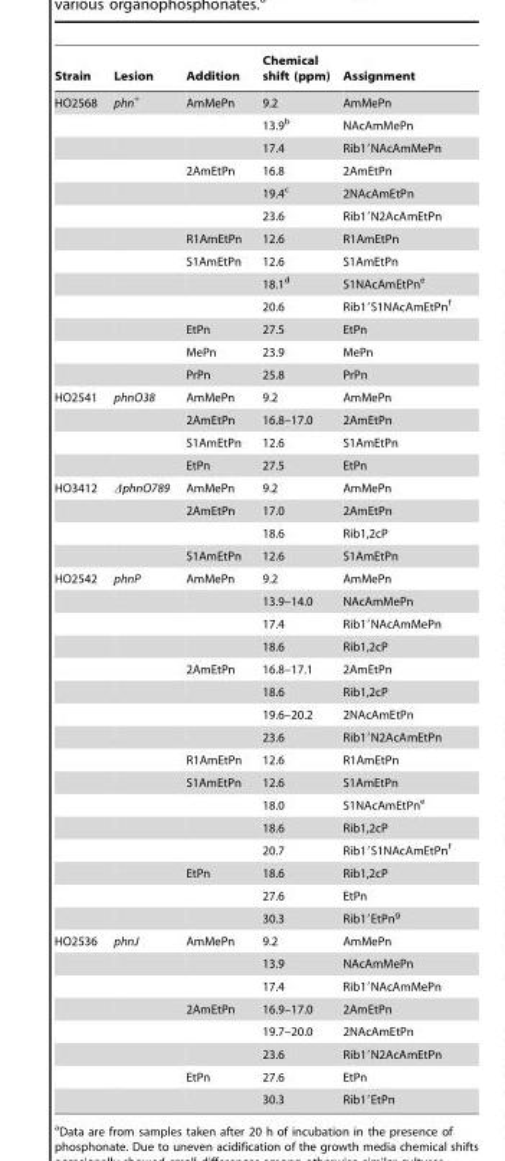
<table><thead><tr><td>Strain</td><td>Lesion</td><td>Addition</td><td>Chemical shift (ppm)</td><td>Assignment</td></tr></thead><tbody><tr><td rowspan="13">HO2568</td><td>phn<sup>+</sup></td><td>AmMePn</td><td>9.2</td><td>AmMePn</td></tr><tr><td></td><td></td><td>13.9<sup>b</sup></td><td>NAcAmMePn</td></tr><tr><td></td><td></td><td>17.4</td><td>Rib1′NAcAmMePn</td></tr><tr><td></td><td>2AmEtPn</td><td>16.8</td><td>2AmEtPn</td></tr><tr><td></td><td></td><td>19.4<sup>c</sup></td><td>2NAcAmEtPn</td></tr><tr><td></td><td></td><td>23.6</td><td>Rib1′N2AcAmEtPn</td></tr><tr><td></td><td>R1AmEtPn</td><td>12.6</td><td>R1AmEtPn</td></tr><tr><td></td><td>S1AmEtPn</td><td>12.6</td><td>S1AmEtPn</td></tr><tr><td></td><td></td><td>18.1<sup>d</sup></td><td>S1NAcAmEtPn<sup>e</sup></td></tr><tr><td></td><td></td><td>20.6</td><td>Rib1′S1NAcAmEtPn<sup>f</sup></td></tr><tr><td></td><td>EtPn</td><td>27.5</td><td>EtPn</td></tr><tr><td></td><td>MePn</td><td>23.9</td><td>MePn</td></tr><tr><td></td><td>PrPn</td><td>25.8</td><td>PrPn</td></tr><tr><td rowspan="4">HO2541</td><td>phnO38</td><td>AmMePn</td><td>9.2</td><td>AmMePn</td></tr><tr><td></td><td>2AmEtPn</td><td>16.8–17.0</td><td>2AmEtPn</td></tr><tr><td></td><td>S1AmEtPn</td><td>12.6</td><td>S1AmEtPn</td></tr><tr><td></td><td>EtPn</td><td>27.5</td><td>EtPn</td></tr><tr><td rowspan="4">HO3412</td><td>ΔphnO789</td><td>AmMePn</td><td>9.2</td><td>AmMePn</td></tr><tr><td></td><td>2AmEtPn</td><td>17.0</td><td>2AmEtPn</td></tr><tr><td></td><td></td><td>18.6</td><td>Rib1,2cP</td></tr><tr><td></td><td>S1AmEtPn</td><td>12.6</td><td>S1AmEtPn</td></tr><tr><td rowspan="16">HO2542</td><td>phnP</td><td>AmMePn</td><td>9.2</td><td>AmMePn</td></tr><tr><td></td><td></td><td>13.9–14.0</td><td>NAcAmMePn</td></tr><tr><td></td><td></td><td>17.4</td><td>Rib1′NAcAmMePn</td></tr><tr><td></td><td></td><td>18.6</td><td>Rib1,2cP</td></tr><tr><td></td><td>2AmEtPn</td><td>16.8–17.1</td><td>2AmEtPn</td></tr><tr><td></td><td></td><td>18.6</td><td>Rib1,2cP</td></tr><tr><td></td><td></td><td>19.6–20.2</td><td>2NAcAmEtPn</td></tr><tr><td></td><td></td><td>23.6</td><td>Rib1′N2AcAmEtPn</td></tr><tr><td></td><td>R1AmEtPn</td><td>12.6</td><td>R1AmEtPn</td></tr><tr><td></td><td>S1AmEtPn</td><td>12.6</td><td>S1AmEtPn</td></tr><tr><td></td><td></td><td>18.0</td><td>S1NAcAmEtPn<sup>e</sup></td></tr><tr><td></td><td></td><td>18.6</td><td>Rib1,2cP</td></tr><tr><td></td><td></td><td>20.7</td><td>Rib1′S1NAcAmEtPn<sup>f</sup></td></tr><tr><td></td><td>EtPn</td><td>18.6</td><td>Rib1,2cP</td></tr><tr><td></td><td></td><td>27.6</td><td>EtPn</td></tr><tr><td></td><td></td><td>30.3</td><td>Rib1′EtPn<sup>g</sup></td></tr><tr><td rowspan="8">HO2536</td><td>phnJ</td><td>AmMePn</td><td>9.2</td><td>AmMePn</td></tr><tr><td></td><td></td><td>13.9</td><td>NAcAmMePn</td></tr><tr><td></td><td></td><td>17.4</td><td>Rib1′NAcAmMePn</td></tr><tr><td></td><td>2AmEtPn</td><td>16.9–17.0</td><td>2AmEtPn</td></tr><tr><td></td><td></td><td>19.7–20.0</td><td>2NAcAmEtPn</td></tr><tr><td></td><td></td><td>23.6</td><td>Rib1′N2AcAmEtPn</td></tr><tr><td></td><td>EtPn</td><td>27.6</td><td>EtPn</td></tr><tr><td></td><td></td><td>30.3</td><td>Rib1′EtPn</td></tr></tbody></table>